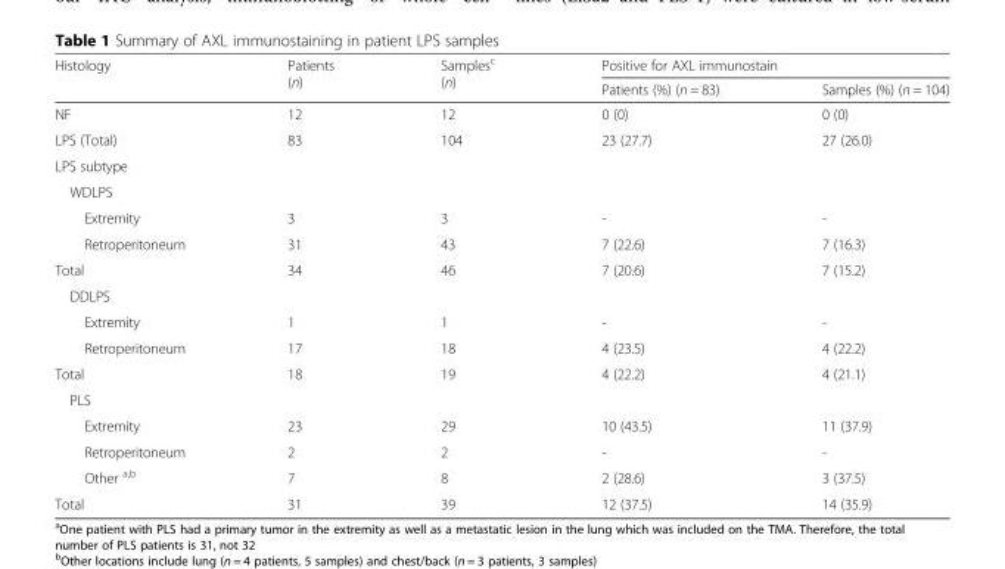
<table><thead><tr><td rowspan="2">Histology</td><td rowspan="2">Patients (n)</td><td rowspan="2">Samples<sup>c</sup> (n)</td><td colspan="2">Positive for AXL immunostain</td></tr><tr><td>Patients (%) (n = 83)</td><td>Samples (%) (n = 104)</td></tr></thead><tbody><tr><td>NF</td><td>12</td><td>12</td><td>0 (0)</td><td>0 (0)</td></tr><tr><td>LPS (Total)</td><td>83</td><td>104</td><td>23 (27.7)</td><td>27 (26.0)</td></tr><tr><td colspan="5">LPS subtype</td></tr><tr><td colspan="5">WDLPS</td></tr><tr><td>Extremity</td><td>3</td><td>3</td><td>-</td><td>-</td></tr><tr><td>Retroperitoneum</td><td>31</td><td>43</td><td>7 (22.6)</td><td>7 (16.3)</td></tr><tr><td>Total</td><td>34</td><td>46</td><td>7 (20.6)</td><td>7 (15.2)</td></tr><tr><td colspan="5">DDLPS</td></tr><tr><td>Extremity</td><td>1</td><td>1</td><td>-</td><td>-</td></tr><tr><td>Retroperitoneum</td><td>17</td><td>18</td><td>4 (23.5)</td><td>4 (22.2)</td></tr><tr><td>Total</td><td>18</td><td>19</td><td>4 (22.2)</td><td>4 (21.1)</td></tr><tr><td colspan="5">PLS</td></tr><tr><td>Extremity</td><td>23</td><td>29</td><td>10 (43.5)</td><td>11 (37.9)</td></tr><tr><td>Retroperitoneum</td><td>2</td><td>2</td><td>-</td><td>-</td></tr><tr><td>Other <sup>a,b</sup></td><td>7</td><td>8</td><td>2 (28.6)</td><td>3 (37.5)</td></tr><tr><td>Total</td><td>31</td><td>39</td><td>12 (37.5)</td><td>14 (35.9)</td></tr></tbody></table>